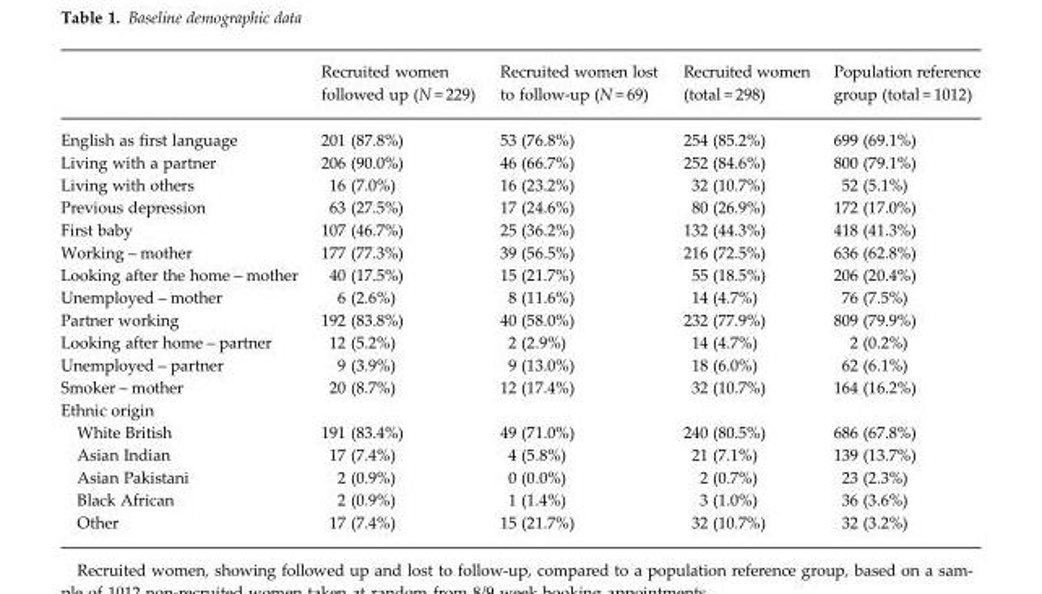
<table><thead><tr><td></td><td>Recruited women followed up (N = 229)</td><td>Recruited women lost to follow-up (N = 69)</td><td>Recruited women (total = 298)</td><td>Population reference group (total = 1012)</td></tr></thead><tbody><tr><td>English as first language</td><td>201 (87.8%)</td><td>53 (76.8%)</td><td>254 (85.2%)</td><td>699 (69.1%)</td></tr><tr><td>Living with a partner</td><td>206 (90.0%)</td><td>46 (66.7%)</td><td>252 (84.6%)</td><td>800 (79.1%)</td></tr><tr><td>Living with others</td><td>16 (7.0%)</td><td>16 (23.2%)</td><td>32 (10.7%)</td><td>52 (5.1%)</td></tr><tr><td>Previous depression</td><td>63 (27.5%)</td><td>17 (24.6%)</td><td>80 (26.9%)</td><td>172 (17.0%)</td></tr><tr><td>First baby</td><td>107 (46.7%)</td><td>25 (36.2%)</td><td>132 (44.3%)</td><td>418 (41.3%)</td></tr><tr><td>Working – mother</td><td>177 (77.3%)</td><td>39 (56.5%)</td><td>216 (72.5%)</td><td>636 (62.8%)</td></tr><tr><td>Looking after the home – mother</td><td>40 (17.5%)</td><td>15 (21.7%)</td><td>55 (18.5%)</td><td>206 (20.4%)</td></tr><tr><td>Unemployed – mother</td><td>6 (2.6%)</td><td>8 (11.6%)</td><td>14 (4.7%)</td><td>76 (7.5%)</td></tr><tr><td>Partner working</td><td>192 (83.8%)</td><td>40 (58.0%)</td><td>232 (77.9%)</td><td>809 (79.9%)</td></tr><tr><td>Looking after home – partner</td><td>12 (5.2%)</td><td>2 (2.9%)</td><td>14 (4.7%)</td><td>2 (0.2%)</td></tr><tr><td>Unemployed – partner</td><td>9 (3.9%)</td><td>9 (13.0%)</td><td>18 (6.0%)</td><td>62 (6.1%)</td></tr><tr><td>Smoker – mother</td><td>20 (8.7%)</td><td>12 (17.4%)</td><td>32 (10.7%)</td><td>164 (16.2%)</td></tr><tr><td colspan="5">Ethnic origin</td></tr><tr><td>White British</td><td>191 (83.4%)</td><td>49 (71.0%)</td><td>240 (80.5%)</td><td>686 (67.8%)</td></tr><tr><td>Asian Indian</td><td>17 (7.4%)</td><td>4 (5.8%)</td><td>21 (7.1%)</td><td>139 (13.7%)</td></tr><tr><td>Asian Pakistani</td><td>2 (0.9%)</td><td>0 (0.0%)</td><td>2 (0.7%)</td><td>23 (2.3%)</td></tr><tr><td>Black African</td><td>2 (0.9%)</td><td>1 (1.4%)</td><td>3 (1.0%)</td><td>36 (3.6%)</td></tr><tr><td>Other</td><td>17 (7.4%)</td><td>15 (21.7%)</td><td>32 (10.7%)</td><td>32 (3.2%)</td></tr></tbody></table>